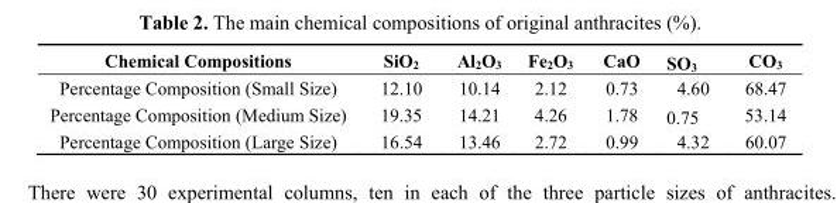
<table><thead><tr><td>Chemical Compositions</td><td>SiO<sub>2</sub></td><td>Al<sub>2</sub>O<sub>3</sub></td><td>Fe<sub>2</sub>O<sub>3</sub></td><td>CaO</td><td>SO<sub>3</sub></td><td>CO<sub>3</sub></td></tr></thead><tbody><tr><td>Percentage Composition (Small Size)</td><td>12.10</td><td>10.14</td><td>2.12</td><td>0.73</td><td>4.60</td><td>68.47</td></tr><tr><td>Percentage Composition (Medium Size)</td><td>19.35</td><td>14.21</td><td>4.26</td><td>1.78</td><td>0.75</td><td>53.14</td></tr><tr><td>Percentage Composition (Large Size)</td><td>16.54</td><td>13.46</td><td>2.72</td><td>0.99</td><td>4.32</td><td>60.07</td></tr></tbody></table>